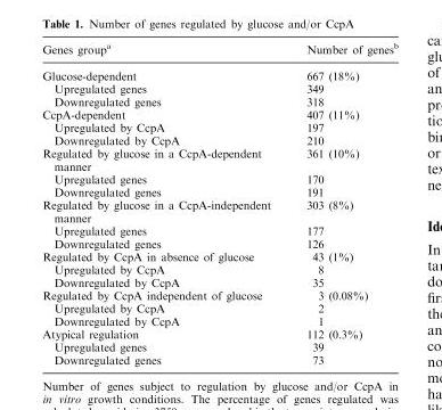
<table><thead><tr><td>Genes group<sup>a</sup></td><td>Number of genes<sup>b</sup></td></tr></thead><tbody><tr><td>Glucose-dependent</td><td>667 (18%)</td></tr><tr><td>Upregulated genes</td><td>349</td></tr><tr><td>Downregulated genes</td><td>318</td></tr><tr><td>CcpA-dependent</td><td>407 (11%)</td></tr><tr><td>Upregulated by CcpA</td><td>197</td></tr><tr><td>Downregulated by CcpA</td><td>210</td></tr><tr><td>Regulated by glucose in a CcpA-dependent manner</td><td>361 (10%)</td></tr><tr><td>Upregulated genes</td><td>170</td></tr><tr><td>Downregulated genes</td><td>191</td></tr><tr><td>Regulated by glucose in a CcpA-independent manner</td><td>303 (8%)</td></tr><tr><td>Upregulated genes</td><td>177</td></tr><tr><td>Downregulated genes</td><td>126</td></tr><tr><td>Regulated by CcpA in absence of glucose</td><td>43 (1%)</td></tr><tr><td>Upregulated by CcpA</td><td>8</td></tr><tr><td>Downregulated by CcpA</td><td>35</td></tr><tr><td>Regulated by CcpA independent of glucose</td><td>3 (0.08%)</td></tr><tr><td>Upregulated by CcpA</td><td>2</td></tr><tr><td>Downregulated by CcpA</td><td>1</td></tr><tr><td>Atypical regulation</td><td>112 (0.3%)</td></tr><tr><td>Upregulated genes</td><td>39</td></tr><tr><td>Downregulated genes</td><td>73</td></tr></tbody></table>